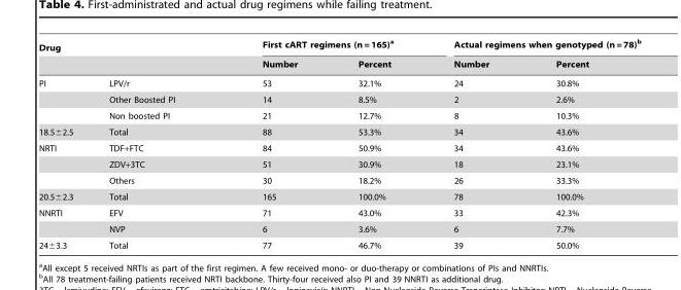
<table><thead><tr><td colspan="2">Drug</td><td colspan="2">First cART regimens (n = 165)<sup>a</sup></td><td colspan="2">Actual regimens when genotyped (n = 78)<sup>b</sup></td></tr><tr><td></td><td></td><td>Number</td><td>Percent</td><td>Number</td><td>Percent</td></tr></thead><tbody><tr><td rowspan="3">PI</td><td>LPV/r</td><td>53</td><td>32.1%</td><td>24</td><td>30.8%</td></tr><tr><td>Other Boosted PI</td><td>14</td><td>8.5%</td><td>2</td><td>2.6%</td></tr><tr><td>Non boosted PI</td><td>21</td><td>12.7%</td><td>8</td><td>10.3%</td></tr><tr><td>18.5±2.5</td><td>Total</td><td>88</td><td>53.3%</td><td>34</td><td>43.6%</td></tr><tr><td rowspan="3">NRTI</td><td>TDF+FTC</td><td>84</td><td>50.9%</td><td>34</td><td>43.6%</td></tr><tr><td>ZDV+3TC</td><td>51</td><td>30.9%</td><td>18</td><td>23.1%</td></tr><tr><td>Others</td><td>30</td><td>18.2%</td><td>26</td><td>33.3%</td></tr><tr><td>20.5±2.3</td><td>Total</td><td>165</td><td>100.0%</td><td>78</td><td>100.0%</td></tr><tr><td rowspan="2">NNRTI</td><td>EFV</td><td>71</td><td>43.0%</td><td>33</td><td>42.3%</td></tr><tr><td>NVP</td><td>6</td><td>3.6%</td><td>6</td><td>7.7%</td></tr><tr><td>24±3.3</td><td>Total</td><td>77</td><td>46.7%</td><td>39</td><td>50.0%</td></tr></tbody></table>